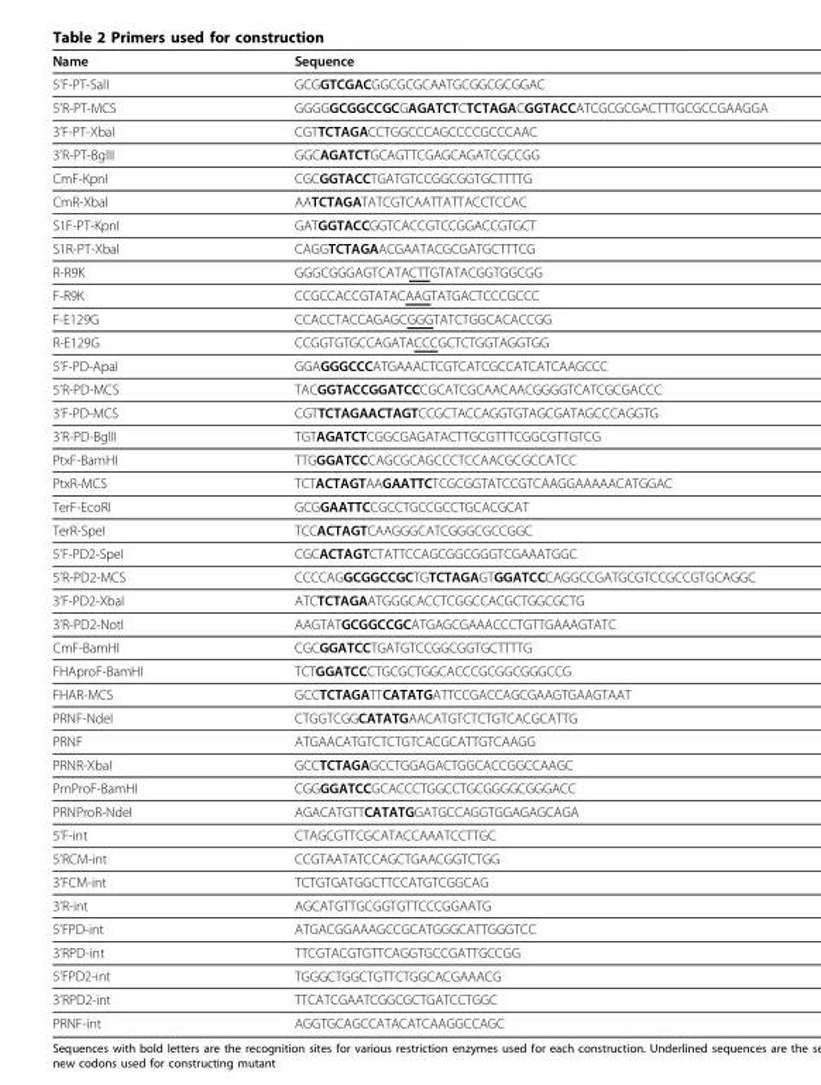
<table><thead><tr><td>Name</td><td>Sequence</td></tr></thead><tbody><tr><td>5’F-PT-SalI</td><td>GCGGTCGACGGCGCGCAATGCGGCGCGGAC</td></tr><tr><td>5’R-PT-MCS</td><td>GGGGGCGGCCGCGAGATCTCTCTAGACGGTACCATCGCGCGACTTTGCGCCGAAGGA</td></tr><tr><td>3’F-PT-XbaI</td><td>CGTTCTAGACCTGGCCCAGCCCCGCCCAAC</td></tr><tr><td>3’R-PT-BglII</td><td>GGCAGATCTGCAGTTCGAGCAGATCGCCGG</td></tr><tr><td>CmF-KpnI</td><td>CGCGGTACCTGATGTCCGGCGGTGCTTTTG</td></tr><tr><td>CmR-XbaI</td><td>AATCTAGATATCGTCAATTATTACCTCCAC</td></tr><tr><td>S1F-PT-KpnI</td><td>GATGGTACCGGTCACCGTCCGGACCGTGCT</td></tr><tr><td>S1R-PT-XbaI</td><td>CAGGTCTAGAACGAATACGCGATGCTTTCG</td></tr><tr><td>R-R9K</td><td>GGGCGGGAGTCATACTTGTATACGGTGGCGG</td></tr><tr><td>F-R9K</td><td>CCGCCACCGTATACAAGTATGACTCCCGCCC</td></tr><tr><td>F-E129G</td><td>CCACCTACCAGAGCGGGTATCTGGCACACCGG</td></tr><tr><td>R-E129G</td><td>CCGGTGTGCCAGATACCCGCTCTGGTAGGTGG</td></tr><tr><td>5’F-PD-ApaI</td><td>GGAGGGCCCATGAAACTCGTCATCGCCATCATCAAGCCC</td></tr><tr><td>5’R-PD-MCS</td><td>TACGGTACCGGATCCCGCATCGCAACAACGGGGTCATCGCGACCC</td></tr><tr><td>3’F-PD-MCS</td><td>CGTTCTAGAACTAGTCCGCTACCAGGTGTAGCGATAGCCCAGGTG</td></tr><tr><td>3’R-PD-BglII</td><td>TGTAGATCTCGGCGAGATACTTGCGTTTCGGCGTTGTCG</td></tr><tr><td>PtxF-BamHI</td><td>TTGGGATCCCAGCGCAGCCCTCCAACGCGCCATCC</td></tr><tr><td>PtxR-MCS</td><td>TCTACTAGTAAGAATTCTCGCGGTATCCGTCAAGGAAAAACATGGAC</td></tr><tr><td>TerF-EcoRI</td><td>GCGGAATTCCGCCTGCCGCCTGCACGCAT</td></tr><tr><td>TerR-SpeI</td><td>TCCACTAGTCAAGGGCATCGGGCGCCGGC</td></tr><tr><td>5’F-PD2-SpeI</td><td>CGCACTAGTCTATTCCAGCGGCGGGTCGAAATGGC</td></tr><tr><td>5’R-PD2-MCS</td><td>CCCCAGGCGGCCGCTGTCTAGAGTGGATCCCAGGCCGATGCGTCCGCCGTGCAGGC</td></tr><tr><td>3’F-PD2-XbaI</td><td>ATCTCTAGAATGGGCACCTCGGCCACGCTGGCGCTG</td></tr><tr><td>3’R-PD2-NotI</td><td>AAGTATGCGGCCGCATGAGCGAAACCCTGTTGAAAGTATC</td></tr><tr><td>CmF-BamHI</td><td>CGCGGATCCTGATGTCCGGCGGTGCTTTTG</td></tr><tr><td>FHAproF-BamHI</td><td>TCTGGATCCCTGCGCTGGCACCCGCGGCGGGCCG</td></tr><tr><td>FHAR-MCS</td><td>GCCTCTAGATTCATATGATTCCGACCAGCGAAGTGAAGTAAT</td></tr><tr><td>PRNF-NdeI</td><td>CTGGTCGGCATATGAACATGTCTCTGTCACGCATTG</td></tr><tr><td>PRNF</td><td>ATGAACATGTCTCTGTCACGCATTGTCAAGG</td></tr><tr><td>PRNR-XbaI</td><td>GCCTCTAGAGCCTGGAGACTGGCACCGGCCAAGC</td></tr><tr><td>PrnProF-BamHI</td><td>CGGGGATCCGCACCCTGGCCTGCGGGGCGGGACC</td></tr><tr><td>PRNProR-NdeI</td><td>AGACATGTTCATATGGATGCCAGGTGGAGAGCAGA</td></tr><tr><td>5’F-int</td><td>CTAGCGTTCGCATACCAAATCCTTGC</td></tr><tr><td>5’RCM-int</td><td>CCGTAATATCCAGCTGAACGGTCTGG</td></tr><tr><td>3’FCM-int</td><td>TCTGTGATGGCTTCCATGTCGGCAG</td></tr><tr><td>3’R-int</td><td>AGCATGTTGCGGTGTTCCCGGAATG</td></tr><tr><td>5’FPD-int</td><td>ATGACGGAAAGCCGCATGGGCATTGGGTCC</td></tr><tr><td>3’RPD-int</td><td>TTCGTACGTGTTCAGGTGCCGATTGCCGG</td></tr><tr><td>5’FPD2-int</td><td>TGGGCTGGCTGTTCTGGCACGAAACG</td></tr><tr><td>3’RPD2-int</td><td>TTCATCGAATCGGCGCTGATCCTGGC</td></tr><tr><td>PRNF-int</td><td>AGGTGCAGCCATACATCAAGGCCAGC</td></tr></tbody></table>